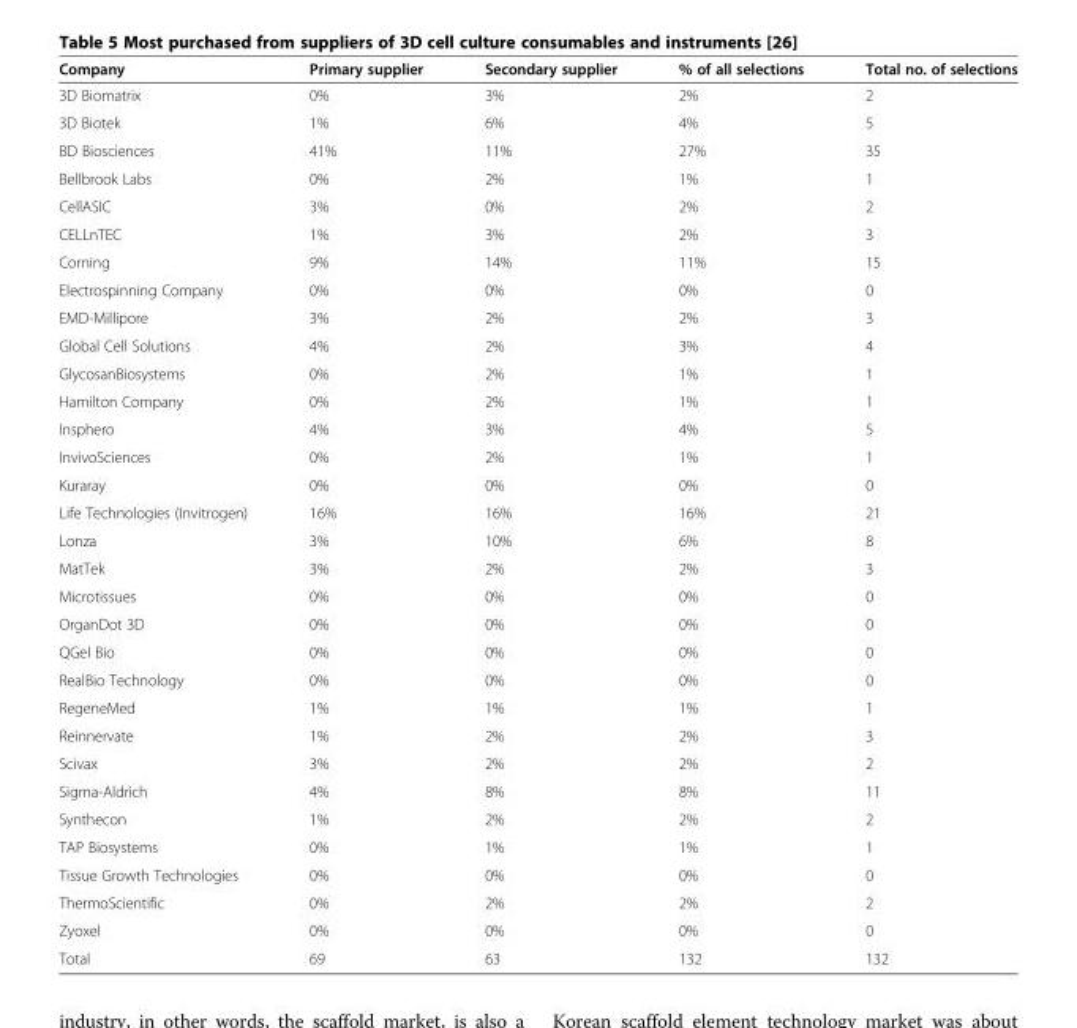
<table><thead><tr><td>Company</td><td>Primary supplier</td><td>Secondary supplier</td><td>% of all selections</td><td>Total no. of selections</td></tr></thead><tbody><tr><td>3D Biomatrix</td><td>0%</td><td>3%</td><td>2%</td><td>2</td></tr><tr><td>3D Biotek</td><td>1%</td><td>6%</td><td>4%</td><td>5</td></tr><tr><td>BD Biosciences</td><td>41%</td><td>11%</td><td>27%</td><td>35</td></tr><tr><td>Bellbrook Labs</td><td>0%</td><td>2%</td><td>1%</td><td>1</td></tr><tr><td>CellASIC</td><td>3%</td><td>0%</td><td>2%</td><td>2</td></tr><tr><td>CELLnTEC</td><td>1%</td><td>3%</td><td>2%</td><td>3</td></tr><tr><td>Corning</td><td>9%</td><td>14%</td><td>11%</td><td>15</td></tr><tr><td>Electrospinning Company</td><td>0%</td><td>0%</td><td>0%</td><td>0</td></tr><tr><td>EMD-Millipore</td><td>3%</td><td>2%</td><td>2%</td><td>3</td></tr><tr><td>Global Cell Solutions</td><td>4%</td><td>2%</td><td>3%</td><td>4</td></tr><tr><td>GlycosanBiosystems</td><td>0%</td><td>2%</td><td>1%</td><td>1</td></tr><tr><td>Hamilton Company</td><td>0%</td><td>2%</td><td>1%</td><td>1</td></tr><tr><td>Insphero</td><td>4%</td><td>3%</td><td>4%</td><td>5</td></tr><tr><td>InvivoSciences</td><td>0%</td><td>2%</td><td>1%</td><td>1</td></tr><tr><td>Kuraray</td><td>0%</td><td>0%</td><td>0%</td><td>0</td></tr><tr><td>Life Technologies (Invitrogen)</td><td>16%</td><td>16%</td><td>16%</td><td>21</td></tr><tr><td>Lonza</td><td>3%</td><td>10%</td><td>6%</td><td>8</td></tr><tr><td>MatTek</td><td>3%</td><td>2%</td><td>2%</td><td>3</td></tr><tr><td>Microtissues</td><td>0%</td><td>0%</td><td>0%</td><td>0</td></tr><tr><td>OrganDot 3D</td><td>0%</td><td>0%</td><td>0%</td><td>0</td></tr><tr><td>QGel Bio</td><td>0%</td><td>0%</td><td>0%</td><td>0</td></tr><tr><td>RealBio Technology</td><td>0%</td><td>0%</td><td>0%</td><td>0</td></tr><tr><td>RegeneMed</td><td>1%</td><td>1%</td><td>1%</td><td>1</td></tr><tr><td>Reinnervate</td><td>1%</td><td>2%</td><td>2%</td><td>3</td></tr><tr><td>Scivax</td><td>3%</td><td>2%</td><td>2%</td><td>2</td></tr><tr><td>Sigma-Aldrich</td><td>4%</td><td>8%</td><td>8%</td><td>11</td></tr><tr><td>Synthecon</td><td>1%</td><td>2%</td><td>2%</td><td>2</td></tr><tr><td>TAP Biosystems</td><td>0%</td><td>1%</td><td>1%</td><td>1</td></tr><tr><td>Tissue Growth Technologies</td><td>0%</td><td>0%</td><td>0%</td><td>0</td></tr><tr><td>ThermoScientific</td><td>0%</td><td>2%</td><td>2%</td><td>2</td></tr><tr><td>Zyoxel</td><td>0%</td><td>0%</td><td>0%</td><td>0</td></tr><tr><td>Total</td><td>69</td><td>63</td><td>132</td><td>132</td></tr></tbody></table>